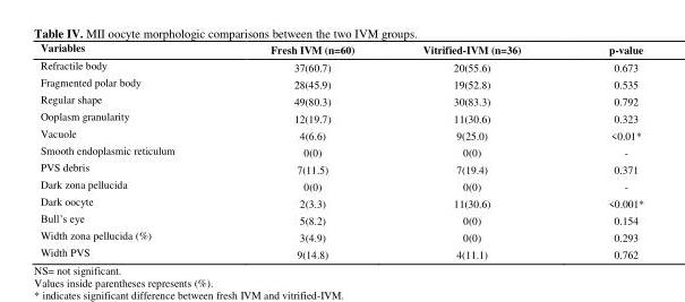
<table><thead><tr><td>Variables</td><td>Fresh IVM (n=60)</td><td>Vitrified-IVM (n=36)</td><td>p-value</td></tr></thead><tbody><tr><td>Refractile body</td><td>37(60.7)</td><td>20(55.6)</td><td>0.673</td></tr><tr><td>Fragmented polar body</td><td>28(45.9)</td><td>19(52.8)</td><td>0.535</td></tr><tr><td>Regular shape</td><td>49(80.3)</td><td>30(83.3)</td><td>0.792</td></tr><tr><td>Ooplasm granularity</td><td>12(19.7)</td><td>11(30.6)</td><td>0.323</td></tr><tr><td>Vacuole</td><td>4(6.6)</td><td>9(25.0)</td><td>&lt;0.01*</td></tr><tr><td>Smooth endoplasmic reticulum</td><td>0(0)</td><td>0(0)</td><td>-</td></tr><tr><td>PVS debris</td><td>7(11.5)</td><td>7(19.4)</td><td>0.371</td></tr><tr><td>Dark zona pellucida</td><td>0(0)</td><td>0(0)</td><td>-</td></tr><tr><td>Dark oocyte</td><td>2(3.3)</td><td>11(30.6)</td><td>&lt;0.001*</td></tr><tr><td>Bull’s eye</td><td>5(8.2)</td><td>0(0)</td><td>0.154</td></tr><tr><td>Width zona pellucida (%)</td><td>3(4.9)</td><td>0(0)</td><td>0.293</td></tr><tr><td>Width PVS</td><td>9(14.8)</td><td>4(11.1)</td><td>0.762</td></tr></tbody></table>